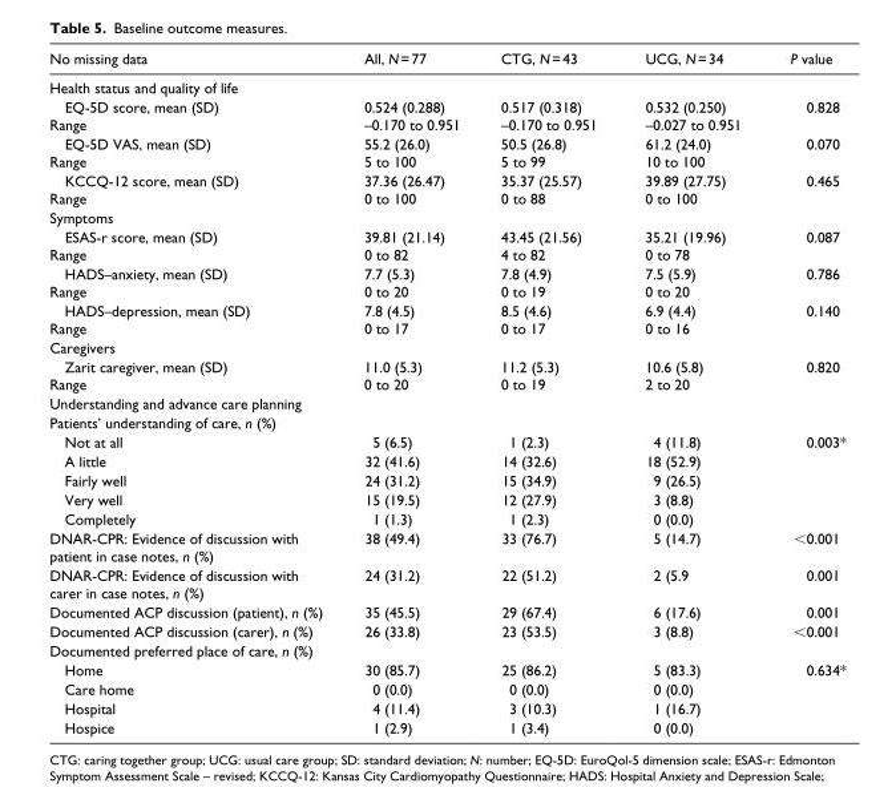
<table><thead><tr><td>No missing data</td><td>All, N = 77</td><td>CTG, N = 43</td><td>UCG, N = 34</td><td>P value</td></tr></thead><tbody><tr><td colspan="5">Health status and quality of life</td></tr><tr><td>EQ-5D score, mean (SD) Range</td><td>0.524 (0.288) –0.170 to 0.951</td><td>0.517 (0.318) –0.170 to 0.951</td><td>0.532 (0.250) –0.027 to 0.951</td><td>0.828</td></tr><tr><td>EQ-5D VAS, mean (SD) Range</td><td>55.2 (26.0) 5 to 100</td><td>50.5 (26.8) 5 to 99</td><td>61.2 (24.0) 10 to 100</td><td>0.070</td></tr><tr><td>KCCQ-12 score, mean (SD) Range</td><td>37.36 (26.47) 0 to 100</td><td>35.37 (25.57) 0 to 88</td><td>39.89 (27.75) 0 to 100</td><td>0.465</td></tr><tr><td colspan="5">Symptoms</td></tr><tr><td>ESAS-r score, mean (SD) Range</td><td>39.81 (21.14) 0 to 82</td><td>43.45 (21.56) 4 to 82</td><td>35.21 (19.96) 0 to 78</td><td>0.087</td></tr><tr><td>HADS–anxiety, mean (SD) Range</td><td>7.7 (5.3) 0 to 20</td><td>7.8 (4.9) 0 to 19</td><td>7.5 (5.9) 0 to 20</td><td>0.786</td></tr><tr><td>HADS–depression, mean (SD) Range</td><td>7.8 (4.5) 0 to 17</td><td>8.5 (4.6) 0 to 17</td><td>6.9 (4.4) 0 to 16</td><td>0.140</td></tr><tr><td colspan="5">Caregivers</td></tr><tr><td>Zarit caregiver, mean (SD) Range</td><td>11.0 (5.3) 0 to 20</td><td>11.2 (5.3) 0 to 19</td><td>10.6 (5.8) 2 to 20</td><td>0.820</td></tr><tr><td colspan="5">Understanding and advance care planning</td></tr><tr><td colspan="5">Patients’ understanding of care, n (%)</td></tr><tr><td>Not at all</td><td>5 (6.5)</td><td>1 (2.3)</td><td>4 (11.8)</td><td>0.003*</td></tr><tr><td>A little</td><td>32 (41.6)</td><td>14 (32.6)</td><td>18 (52.9)</td><td></td></tr><tr><td>Fairly well</td><td>24 (31.2)</td><td>15 (34.9)</td><td>9 (26.5)</td><td></td></tr><tr><td>Very well</td><td>15 (19.5)</td><td>12 (27.9)</td><td>3 (8.8)</td><td></td></tr><tr><td>Completely</td><td>1 (1.3)</td><td>1 (2.3)</td><td>0 (0.0)</td><td></td></tr><tr><td>DNAR-CPR: Evidence of discussion with patient in case notes, n (%)</td><td>38 (49.4)</td><td>33 (76.7)</td><td>5 (14.7)</td><td>&lt;0.001</td></tr><tr><td>DNAR-CPR: Evidence of discussion with carer in case notes, n (%)</td><td>24 (31.2)</td><td>22 (51.2)</td><td>2 (5.9</td><td>0.001</td></tr><tr><td>Documented ACP discussion (patient), n (%)</td><td>35 (45.5)</td><td>29 (67.4)</td><td>6 (17.6)</td><td>0.001</td></tr><tr><td>Documented ACP discussion (carer), n (%)</td><td>26 (33.8)</td><td>23 (53.5)</td><td>3 (8.8)</td><td>&lt;0.001</td></tr><tr><td colspan="5">Documented preferred place of care, n (%)</td></tr><tr><td>Home</td><td>30 (85.7)</td><td>25 (86.2)</td><td>5 (83.3)</td><td>0.634*</td></tr><tr><td>Care home</td><td>0 (0.0)</td><td>0 (0.0)</td><td>0 (0.0)</td><td></td></tr><tr><td>Hospital</td><td>4 (11.4)</td><td>3 (10.3)</td><td>1 (16.7)</td><td></td></tr><tr><td>Hospice</td><td>1 (2.9)</td><td>1 (3.4)</td><td>0 (0.0)</td><td></td></tr></tbody></table>